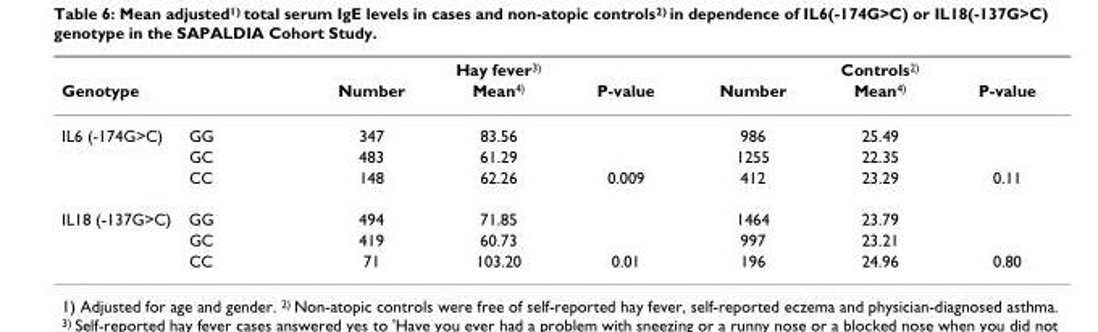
<table><thead><tr><td rowspan="2">Genotype</td><td rowspan="2"></td><td colspan="3">Hay fever<sup>3)</sup></td><td colspan="3">Controls<sup>2)</sup></td></tr><tr><td>Number</td><td>Mean<sup>4)</sup></td><td>P-value</td><td>Number</td><td>Mean<sup>4)</sup></td><td>P-value</td></tr></thead><tbody><tr><td rowspan="3">IL6 (-174G&gt;C)</td><td>GG</td><td>347</td><td>83.56</td><td></td><td>986</td><td>25.49</td><td></td></tr><tr><td>GC</td><td>483</td><td>61.29</td><td></td><td>1255</td><td>22.35</td><td></td></tr><tr><td>CC</td><td>148</td><td>62.26</td><td>0.009</td><td>412</td><td>23.29</td><td>0.11</td></tr><tr><td rowspan="3">IL18 (-137G&gt;C)</td><td>GG</td><td>494</td><td>71.85</td><td></td><td>1464</td><td>23.79</td><td></td></tr><tr><td>GC</td><td>419</td><td>60.73</td><td></td><td>997</td><td>23.21</td><td></td></tr><tr><td>CC</td><td>71</td><td>103.20</td><td>0.01</td><td>196</td><td>24.96</td><td>0.80</td></tr></tbody></table>